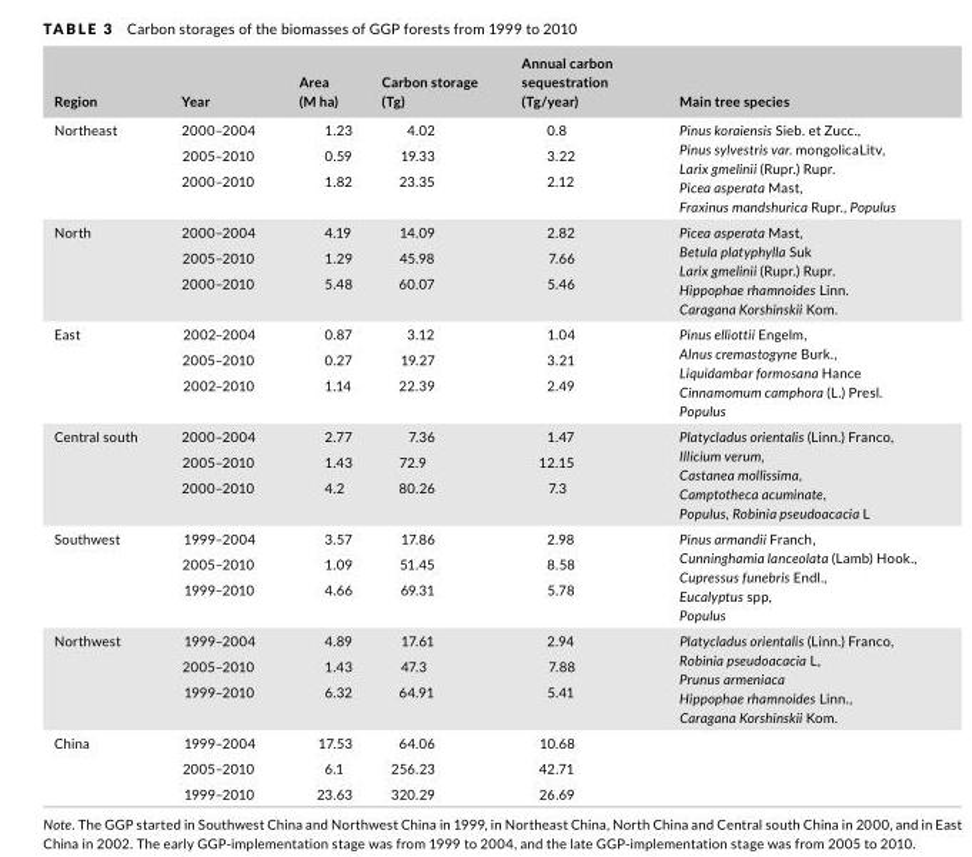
<table><thead><tr><td>Region</td><td>Year</td><td>Area (M ha)</td><td>Carbon storage (Tg)</td><td>Annual carbon sequestration (Tg/year)</td><td>Main tree species</td></tr></thead><tbody><tr><td rowspan="3">Northeast</td><td>2000–2004</td><td>1.23</td><td>4.02</td><td>0.8</td><td rowspan="3">Pinus koraiensis Sieb. et Zucc., Pinus sylvestris var. mongolicaLitv, Larix gmelinii (Rupr.) Rupr. Picea asperata Mast, Fraxinus mandshurica Rupr., Populus</td></tr><tr><td>2005–2010</td><td>0.59</td><td>19.33</td><td>3.22</td></tr><tr><td>2000–2010</td><td>1.82</td><td>23.35</td><td>2.12</td></tr><tr><td rowspan="3">North</td><td>2000–2004</td><td>4.19</td><td>14.09</td><td>2.82</td><td rowspan="3">Picea asperata Mast, Betula platyphylla Suk Larix gmelinii (Rupr.) Rupr. Hippophae rhamnoides Linn. Caragana Korshinskii Kom.</td></tr><tr><td>2005–2010</td><td>1.29</td><td>45.98</td><td>7.66</td></tr><tr><td>2000–2010</td><td>5.48</td><td>60.07</td><td>5.46</td></tr><tr><td rowspan="3">East</td><td>2002–2004</td><td>0.87</td><td>3.12</td><td>1.04</td><td rowspan="3">Pinus elliottii Engelm, Alnus cremastogyne Burk., Liquidambar formosana Hance Cinnamomum camphora (L.) Presl. Populus</td></tr><tr><td>2005–2010</td><td>0.27</td><td>19.27</td><td>3.21</td></tr><tr><td>2002–2010</td><td>1.14</td><td>22.39</td><td>2.49</td></tr><tr><td rowspan="3">Central south</td><td>2000–2004</td><td>2.77</td><td>7.36</td><td>1.47</td><td rowspan="3">Platycladus orientalis (Linn.) Franco, Illicium verum, Castanea mollissima, Camptotheca acuminate, Populus, Robinia pseudoacacia L</td></tr><tr><td>2005–2010</td><td>1.43</td><td>72.9</td><td>12.15</td></tr><tr><td>2000–2010</td><td>4.2</td><td>80.26</td><td>7.3</td></tr><tr><td rowspan="3">Southwest</td><td>1999–2004</td><td>3.57</td><td>17.86</td><td>2.98</td><td rowspan="3">Pinus armandii Franch, Cunninghamia lanceolata (Lamb) Hook., Cupressus funebris Endl., Eucalyptus spp, Populus</td></tr><tr><td>2005–2010</td><td>1.09</td><td>51.45</td><td>8.58</td></tr><tr><td>1999–2010</td><td>4.66</td><td>69.31</td><td>5.78</td></tr><tr><td rowspan="3">Northwest</td><td>1999–2004</td><td>4.89</td><td>17.61</td><td>2.94</td><td rowspan="3">Platycladus orientalis (Linn.) Franco, Robinia pseudoacacia L, Prunus armeniaca Hippophae rhamnoides Linn., Caragana Korshinskii Kom.</td></tr><tr><td>2005–2010</td><td>1.43</td><td>47.3</td><td>7.88</td></tr><tr><td>1999–2010</td><td>6.32</td><td>64.91</td><td>5.41</td></tr><tr><td rowspan="3">China</td><td>1999–2004</td><td>17.53</td><td>64.06</td><td>10.68</td><td rowspan="3"></td></tr><tr><td>2005–2010</td><td>6.1</td><td>256.23</td><td>42.71</td></tr><tr><td>1999–2010</td><td>23.63</td><td>320.29</td><td>26.69</td></tr></tbody></table>